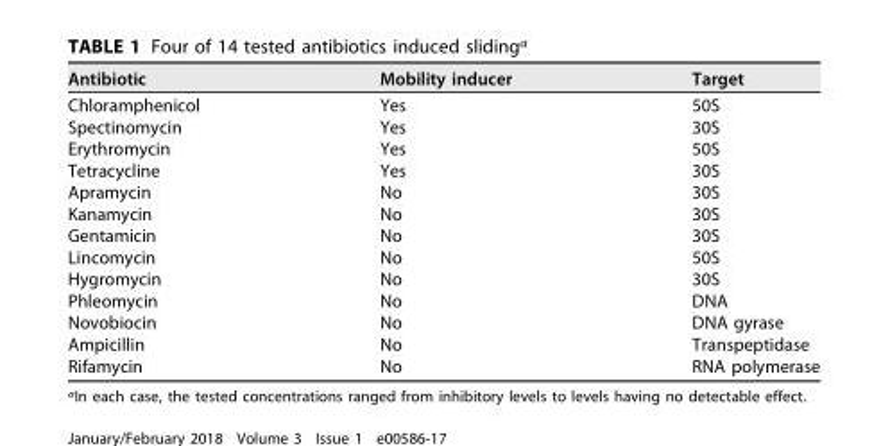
<table><thead><tr><td>Antibiotic</td><td>Mobility inducer</td><td>Target</td></tr></thead><tbody><tr><td>Chloramphenicol</td><td>Yes</td><td>50S</td></tr><tr><td>Spectinomycin</td><td>Yes</td><td>30S</td></tr><tr><td>Erythromycin</td><td>Yes</td><td>50S</td></tr><tr><td>Tetracycline</td><td>Yes</td><td>30S</td></tr><tr><td>Apramycin</td><td>No</td><td>30S</td></tr><tr><td>Kanamycin</td><td>No</td><td>30S</td></tr><tr><td>Gentamicin</td><td>No</td><td>30S</td></tr><tr><td>Lincomycin</td><td>No</td><td>50S</td></tr><tr><td>Hygromycin</td><td>No</td><td>30S</td></tr><tr><td>Phleomycin</td><td>No</td><td>DNA</td></tr><tr><td>Novobiocin</td><td>No</td><td>DNA gyrase</td></tr><tr><td>Ampicillin</td><td>No</td><td>Transpeptidase</td></tr><tr><td>Rifamycin</td><td>No</td><td>RNA polymerase</td></tr></tbody></table>